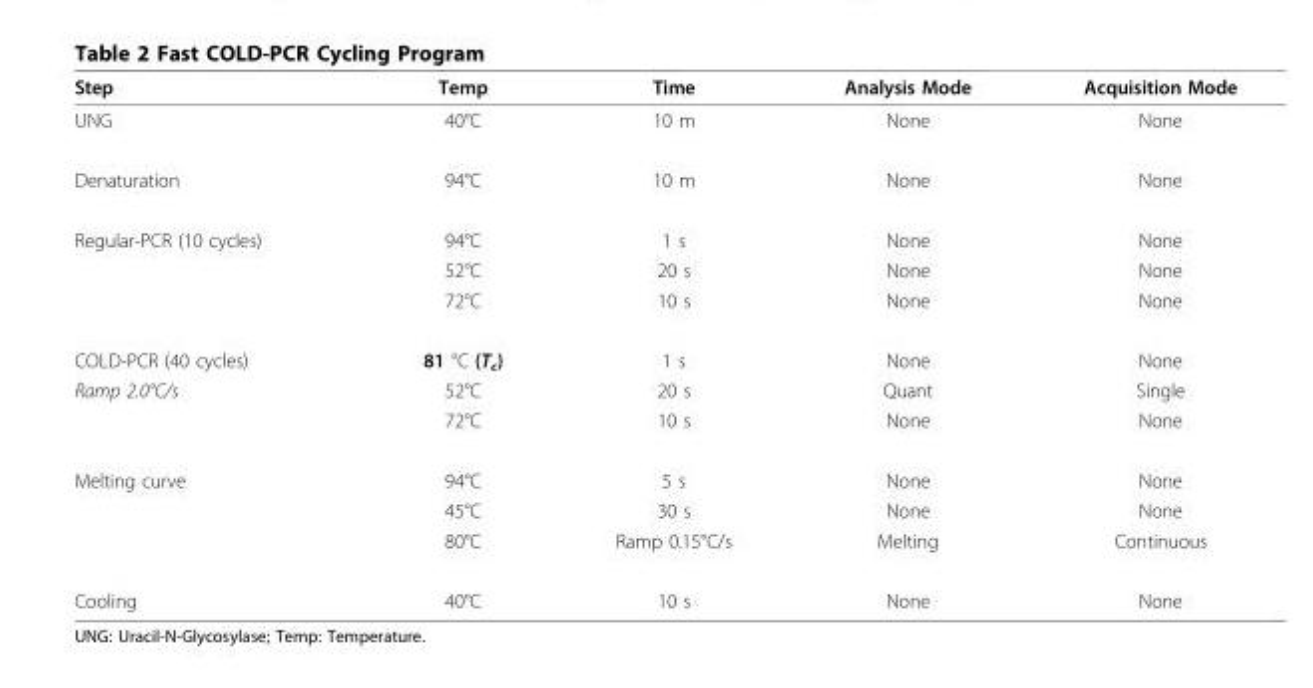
<table><thead><tr><td>Step</td><td>Temp</td><td>Time</td><td>Analysis Mode</td><td>Acquisition Mode</td></tr></thead><tbody><tr><td>UNG</td><td>40°C</td><td>10 m</td><td>None</td><td>None</td></tr><tr><td>Denaturation</td><td>94°C</td><td>10 m</td><td>None</td><td>None</td></tr><tr><td rowspan="3">Regular-PCR (10 cycles)</td><td>94°C</td><td>1 s</td><td>None</td><td>None</td></tr><tr><td>52°C</td><td>20 s</td><td>None</td><td>None</td></tr><tr><td>72°C</td><td>10 s</td><td>None</td><td>None</td></tr><tr><td>COLD-PCR (40 cycles)</td><td>81 °C (T<sub>c</sub>)</td><td>1 s</td><td>None</td><td>None</td></tr><tr><td rowspan="2">Ramp 2.0°C/s</td><td>52°C</td><td>20 s</td><td>Quant</td><td>Single</td></tr><tr><td>72°C</td><td>10 s</td><td>None</td><td>None</td></tr><tr><td rowspan="3">Melting curve</td><td>94°C</td><td>5 s</td><td>None</td><td>None</td></tr><tr><td>45°C</td><td>30 s</td><td>None</td><td>None</td></tr><tr><td>80°C</td><td>Ramp 0.15°C/s</td><td>Melting</td><td>Continuous</td></tr><tr><td>Cooling</td><td>40°C</td><td>10 s</td><td>None</td><td>None</td></tr></tbody></table>